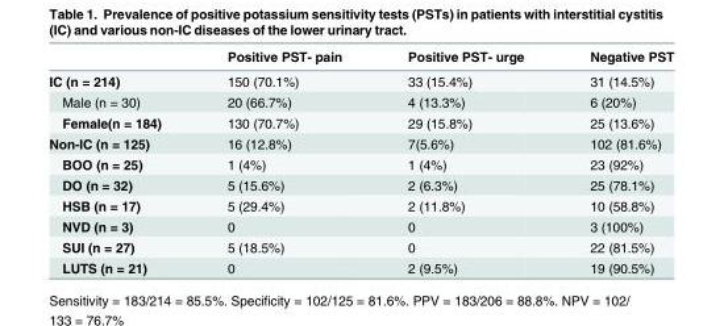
<table><thead><tr><td></td><td>Positive PST- pain</td><td>Positive PST- urge</td><td>Negative PST</td></tr></thead><tbody><tr><td>IC (n = 214)</td><td>150 (70.1%)</td><td>33 (15.4%)</td><td>31 (14.5%)</td></tr><tr><td>Male (n = 30)</td><td>20 (66.7%)</td><td>4 (13.3%)</td><td>6 (20%)</td></tr><tr><td>Female(n = 184)</td><td>130 (70.7%)</td><td>29 (15.8%)</td><td>25 (13.6%)</td></tr><tr><td>Non-IC (n = 125)</td><td>16 (12.8%)</td><td>7(5.6%)</td><td>102 (81.6%)</td></tr><tr><td>BOO (n = 25)</td><td>1 (4%)</td><td>1 (4%)</td><td>23 (92%)</td></tr><tr><td>DO (n = 32)</td><td>5 (15.6%)</td><td>2 (6.3%)</td><td>25 (78.1%)</td></tr><tr><td>HSB (n = 17)</td><td>5 (29.4%)</td><td>2 (11.8%)</td><td>10 (58.8%)</td></tr><tr><td>NVD (n = 3)</td><td>0</td><td>0</td><td>3 (100%)</td></tr><tr><td>SUI (n = 27)</td><td>5 (18.5%)</td><td>0</td><td>22 (81.5%)</td></tr><tr><td>LUTS (n = 21)</td><td>0</td><td>2 (9.5%)</td><td>19 (90.5%)</td></tr></tbody></table>